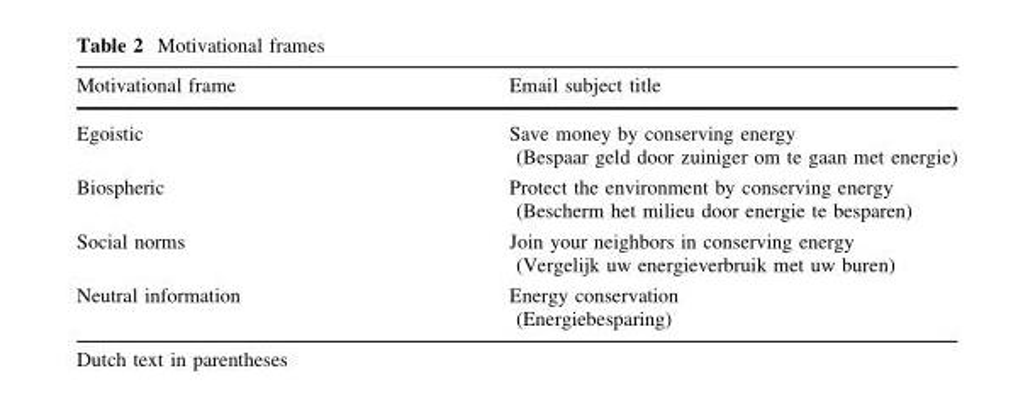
<table><thead><tr><td>Motivational frame</td><td>Email subject title</td></tr></thead><tbody><tr><td>Egoistic</td><td>Save money by conserving energy (Bespaar geld door zuiniger om te gaan met energie)</td></tr><tr><td>Biospheric</td><td>Protect the environment by conserving energy (Bescherm het milieu door energie te besparen)</td></tr><tr><td>Social norms</td><td>Join your neighbors in conserving energy (Vergelijk uw energieverbruik met uw buren)</td></tr><tr><td>Neutral information</td><td>Energy conservation (Energiebesparing)</td></tr></tbody></table>